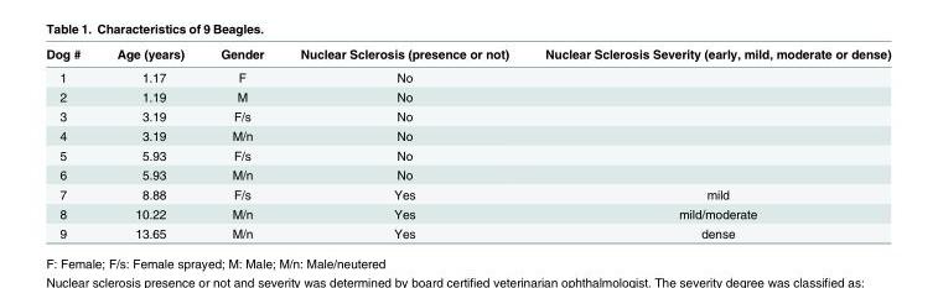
<table><thead><tr><td>Dog #</td><td>Age (years)</td><td>Gender</td><td>Nuclear Sclerosis (presence or not)</td><td>Nuclear Sclerosis Severity (early, mild, moderate or dense)</td></tr></thead><tbody><tr><td>1</td><td>1.17</td><td>F</td><td>No</td><td></td></tr><tr><td>2</td><td>1.19</td><td>M</td><td>No</td><td></td></tr><tr><td>3</td><td>3.19</td><td>F/s</td><td>No</td><td></td></tr><tr><td>4</td><td>3.19</td><td>M/n</td><td>No</td><td></td></tr><tr><td>5</td><td>5.93</td><td>F/s</td><td>No</td><td></td></tr><tr><td>6</td><td>5.93</td><td>M/n</td><td>No</td><td></td></tr><tr><td>7</td><td>8.88</td><td>F/s</td><td>Yes</td><td>mild</td></tr><tr><td>8</td><td>10.22</td><td>M/n</td><td>Yes</td><td>mild/moderate</td></tr><tr><td>9</td><td>13.65</td><td>M/n</td><td>Yes</td><td>dense</td></tr></tbody></table>